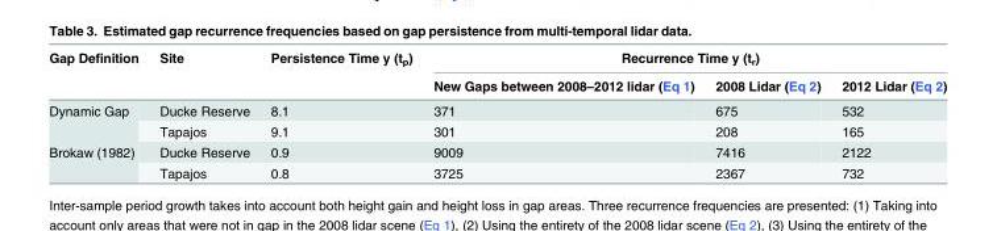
<table><thead><tr><td rowspan="2">Gap Definition</td><td rowspan="2">Site</td><td rowspan="2">Persistence Time y (t<sub>p</sub>)</td><td colspan="3">Recurrence Time y (t<sub>r</sub>)</td></tr><tr><td>New Gaps between 2008–2012 lidar (Eq 1)</td><td>2008 Lidar (Eq 2)</td><td>2012 Lidar (Eq 2)</td></tr></thead><tbody><tr><td rowspan="2">Dynamic Gap</td><td>Ducke Reserve</td><td>8.1</td><td>371</td><td>675</td><td>532</td></tr><tr><td>Tapajos</td><td>9.1</td><td>301</td><td>208</td><td>165</td></tr><tr><td rowspan="2">Brokaw (1982)</td><td>Ducke Reserve</td><td>0.9</td><td>9009</td><td>7416</td><td>2122</td></tr><tr><td>Tapajos</td><td>0.8</td><td>3725</td><td>2367</td><td>732</td></tr></tbody></table>